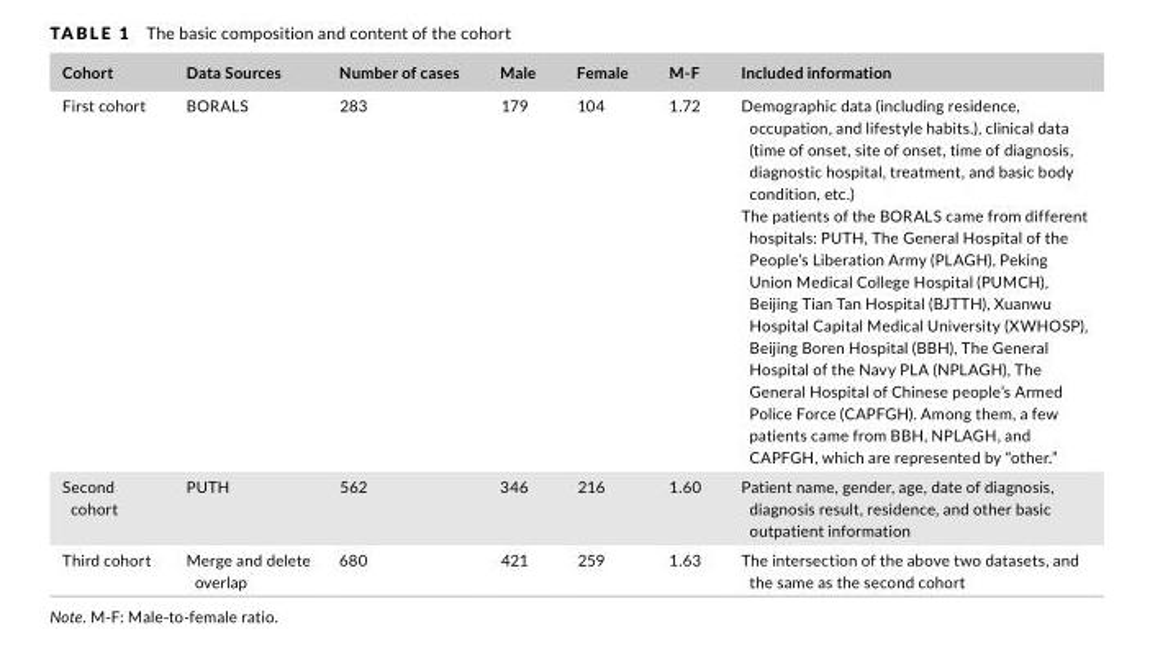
<table><thead><tr><td>Cohort</td><td>Data Sources</td><td>Number of cases</td><td>Male</td><td>Female</td><td>M‐F</td><td>Included information</td></tr></thead><tbody><tr><td>First cohort</td><td>BORALS</td><td>283</td><td>179</td><td>104</td><td>1.72</td><td>Demographic data (including residence, occupation, and lifestyle habits.), clinical data (time of onset, site of onset, time of diagnosis, diagnostic hospital, treatment, and basic body condition, etc.) The patients of the BORALS came from different hospitals: PUTH, The General Hospital of the People’s Liberation Army (PLAGH), Peking Union Medical College Hospital (PUMCH), Beijing Tian Tan Hospital (BJTTH), Xuanwu Hospital Capital Medical University (XWHOSP), Beijing Boren Hospital (BBH), The General Hospital of the Navy PLA (NPLAGH), The General Hospital of Chinese people’s Armed Police Force (CAPFGH). Among them, a few patients came from BBH, NPLAGH, and CAPFGH, which are represented by “other.”</td></tr><tr><td>Second cohort</td><td>PUTH</td><td>562</td><td>346</td><td>216</td><td>1.60</td><td>Patient name, gender, age, date of diagnosis, diagnosis result, residence, and other basic outpatient information</td></tr><tr><td>Third cohort</td><td>Merge and delete overlap</td><td>680</td><td>421</td><td>259</td><td>1.63</td><td>The intersection of the above two datasets, and the same as the second cohort</td></tr></tbody></table>